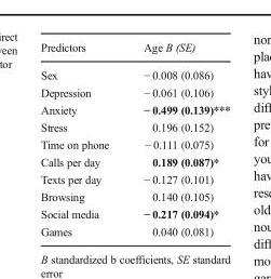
<table><thead><tr><td>Predictors</td><td>Age B (SE)</td></tr></thead><tbody><tr><td>Sex</td><td>− 0.008 (0.086)</td></tr><tr><td>Depression</td><td>− 0.061 (0.106)</td></tr><tr><td>Anxiety</td><td>− 0.499 (0.139)***</td></tr><tr><td>Stress</td><td>0.196 (0.152)</td></tr><tr><td>Time on phone</td><td>− 0.111 (0.075)</td></tr><tr><td>Calls per day</td><td>0.189 (0.087)*</td></tr><tr><td>Texts per day</td><td>− 0.127 (0.101)</td></tr><tr><td>Browsing</td><td>0.140 (0.105)</td></tr><tr><td>Social media</td><td>− 0.217 (0.094)*</td></tr><tr><td>Games</td><td>0.040 (0.081)</td></tr></tbody></table>